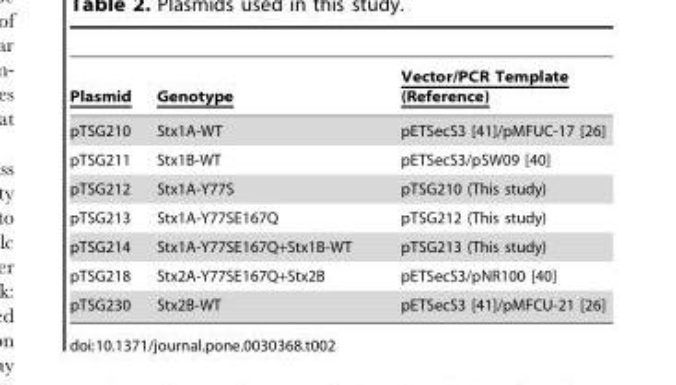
<table><thead><tr><td>Plasmid</td><td>Genotype</td><td>Vector/PCR Template (Reference)</td></tr></thead><tbody><tr><td>pTSG210</td><td>Stx1A-WT</td><td>pETSecS3 [41]/pMFUC-17 [26]</td></tr><tr><td>pTSG211</td><td>Stx1B-WT</td><td>pETSecS3/pSW09 [40]</td></tr><tr><td>pTSG212</td><td>Stx1A-Y77S</td><td>pTSG210 (This study)</td></tr><tr><td>pTSG213</td><td>Stx1A-Y77SE167Q</td><td>pTSG212 (This study)</td></tr><tr><td>pTSG214</td><td>Stx1A-Y77SE167Q+Stx1B-WT</td><td>pTSG213 (This study)</td></tr><tr><td>pTSG218</td><td>Stx2A-Y77SE167Q+Stx2B</td><td>pETSecS3/pNR100 [40]</td></tr><tr><td>pTSG230</td><td>Stx2B-WT</td><td>pETSecS3 [41]/pMFCU-21 [26]</td></tr></tbody></table>